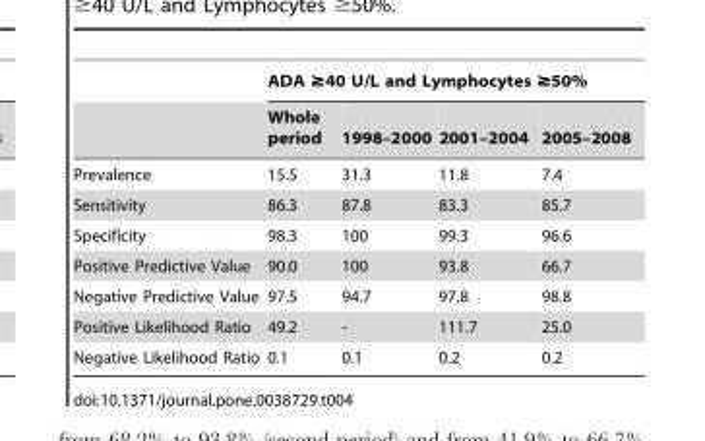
<table><thead><tr><td rowspan="2"></td><td colspan="4">ADA ≥40 U/L and Lymphocytes ≥50%</td></tr><tr><td>Whole period</td><td>1998–2000</td><td>2001–2004</td><td>2005–2008</td></tr></thead><tbody><tr><td>Prevalence</td><td>15.5</td><td>31.3</td><td>11.8</td><td>7.4</td></tr><tr><td>Sensitivity</td><td>86.3</td><td>87.8</td><td>83.3</td><td>85.7</td></tr><tr><td>Specificity</td><td>98.3</td><td>100</td><td>99.3</td><td>96.6</td></tr><tr><td>Positive Predictive Value</td><td>90.0</td><td>100</td><td>93.8</td><td>66.7</td></tr><tr><td>Negative Predictive Value</td><td>97.5</td><td>94.7</td><td>97.8</td><td>98.8</td></tr><tr><td>Positive Likelihood Ratio</td><td>49.2</td><td>-</td><td>111.7</td><td>25.0</td></tr><tr><td>Negative Likelihood Ratio</td><td>0.1</td><td>0.1</td><td>0.2</td><td>0.2</td></tr></tbody></table>